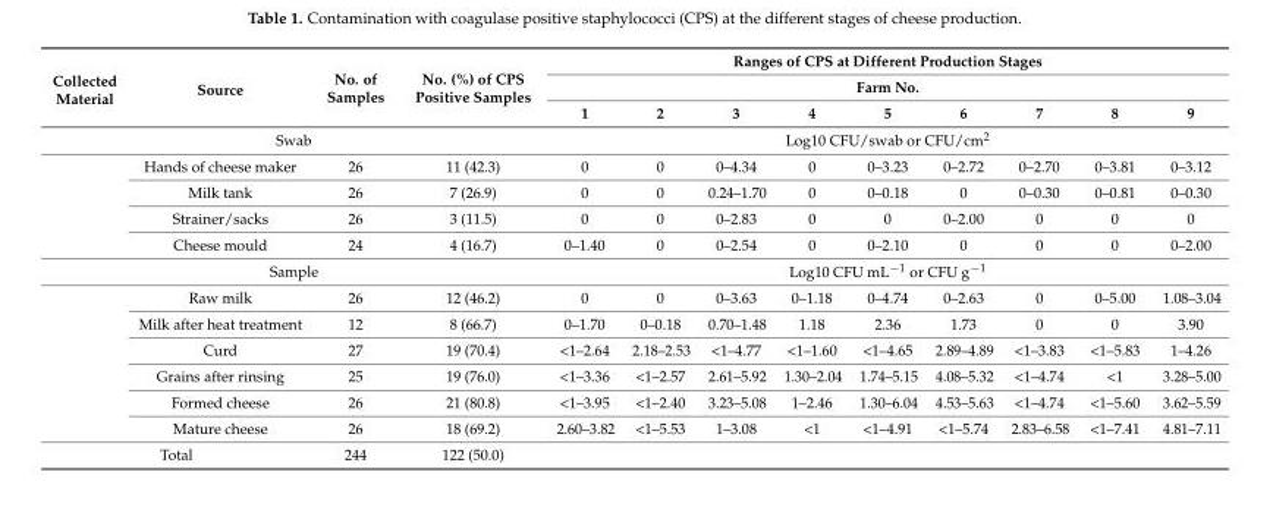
<table><thead><tr><td rowspan="3">Collected Material</td><td rowspan="3">Source</td><td rowspan="3">No. of Samples</td><td rowspan="3">No. (%) of CPS Positive Samples</td><td rowspan="2" colspan="9">Ranges of CPS at Different Production Stages Farm No.</td></tr><tr></tr><tr><td>1</td><td>2</td><td>3</td><td>4</td><td>5</td><td>6</td><td>7</td><td>8</td><td>9</td></tr></thead><tbody><tr><td colspan="4">Swab</td><td colspan="9">Log10 CFU/swab or CFU/cm<sup>2</sup></td></tr><tr><td rowspan="4"></td><td>Hands of cheese maker</td><td>26</td><td>11 (42.3)</td><td>0</td><td>0</td><td>0–4.34</td><td>0</td><td>0–3.23</td><td>0–2.72</td><td>0–2.70</td><td>0–3.81</td><td>0–3.12</td></tr><tr><td>Milk tank</td><td>26</td><td>7 (26.9)</td><td>0</td><td>0</td><td>0.24–1.70</td><td>0</td><td>0–0.18</td><td>0</td><td>0–0.30</td><td>0–0.81</td><td>0–0.30</td></tr><tr><td>Strainer/sacks</td><td>26</td><td>3 (11.5)</td><td>0</td><td>0</td><td>0–2.83</td><td>0</td><td>0</td><td>0–2.00</td><td>0</td><td>0</td><td>0</td></tr><tr><td>Cheese mould</td><td>24</td><td>4 (16.7)</td><td>0–1.40</td><td>0</td><td>0–2.54</td><td>0</td><td>0–2.10</td><td>0</td><td>0</td><td>0</td><td>0–2.00</td></tr><tr><td colspan="4">Sample</td><td colspan="9">Log10 CFU mL<sup>−1</sup> or CFU g<sup>−1</sup></td></tr><tr><td rowspan="6"></td><td>Raw milk</td><td>26</td><td>12 (46.2)</td><td>0</td><td>0</td><td>0–3.63</td><td>0–1.18</td><td>0–4.74</td><td>0–2.63</td><td>0</td><td>0–5.00</td><td>1.08–3.04</td></tr><tr><td>Milk after heat treatment</td><td>12</td><td>8 (66.7)</td><td>0–1.70</td><td>0–0.18</td><td>0.70–1.48</td><td>1.18</td><td>2.36</td><td>1.73</td><td>0</td><td>0</td><td>3.90</td></tr><tr><td>Curd</td><td>27</td><td>19 (70.4)</td><td>&lt;1–2.64</td><td>2.18–2.53</td><td>&lt;1–4.77</td><td>&lt;1–1.60</td><td>&lt;1–4.65</td><td>2.89–4.89</td><td>&lt;1–3.83</td><td>&lt;1–5.83</td><td>1–4.26</td></tr><tr><td>Grains after rinsing</td><td>25</td><td>19 (76.0)</td><td>&lt;1–3.36</td><td>&lt;1–2.57</td><td>2.61–5.92</td><td>1.30–2.04</td><td>1.74–5.15</td><td>4.08–5.32</td><td>&lt;1–4.74</td><td>&lt;1</td><td>3.28–5.00</td></tr><tr><td>Formed cheese</td><td>26</td><td>21 (80.8)</td><td>&lt;1–3.95</td><td>&lt;1–2.40</td><td>3.23–5.08</td><td>1–2.46</td><td>1.30–6.04</td><td>4.53–5.63</td><td>&lt;1–4.74</td><td>&lt;1–5.60</td><td>3.62–5.59</td></tr><tr><td>Mature cheese</td><td>26</td><td>18 (69.2)</td><td>2.60–3.82</td><td>&lt;1–5.53</td><td>1–3.08</td><td>&lt;1</td><td>&lt;1–4.91</td><td>&lt;1–5.74</td><td>2.83–6.58</td><td>&lt;1–7.41</td><td>4.81–7.11</td></tr><tr><td colspan="2">Total</td><td>244</td><td>122 (50.0)</td><td colspan="9"></td></tr></tbody></table>